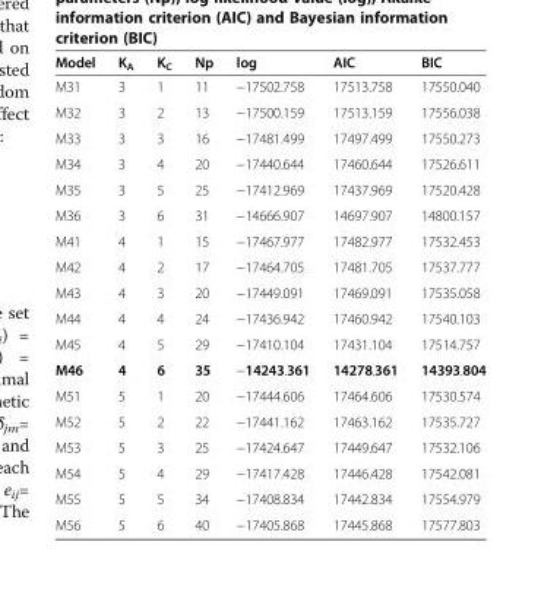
<table><thead><tr><td>Model</td><td>K<sub>A</sub></td><td>K<sub>C</sub></td><td>Np</td><td>log</td><td>AIC</td><td>BIC</td></tr></thead><tbody><tr><td>M31</td><td>3</td><td>1</td><td>11</td><td>−17502.758</td><td>17513.758</td><td>17550.040</td></tr><tr><td>M32</td><td>3</td><td>2</td><td>13</td><td>−17500.159</td><td>17513.159</td><td>17556.038</td></tr><tr><td>M33</td><td>3</td><td>3</td><td>16</td><td>−17481.499</td><td>17497.499</td><td>17550.273</td></tr><tr><td>M34</td><td>3</td><td>4</td><td>20</td><td>−17440.644</td><td>17460.644</td><td>17526.611</td></tr><tr><td>M35</td><td>3</td><td>5</td><td>25</td><td>−17412.969</td><td>17437.969</td><td>17520.428</td></tr><tr><td>M36</td><td>3</td><td>6</td><td>31</td><td>−14666.907</td><td>14697.907</td><td>14800.157</td></tr><tr><td>M41</td><td>4</td><td>1</td><td>15</td><td>−17467.977</td><td>17482.977</td><td>17532.453</td></tr><tr><td>M42</td><td>4</td><td>2</td><td>17</td><td>−17464.705</td><td>17481.705</td><td>17537.777</td></tr><tr><td>M43</td><td>4</td><td>3</td><td>20</td><td>−17449.091</td><td>17469.091</td><td>17535.058</td></tr><tr><td>M44</td><td>4</td><td>4</td><td>24</td><td>−17436.942</td><td>17460.942</td><td>17540.103</td></tr><tr><td>M45</td><td>4</td><td>5</td><td>29</td><td>−17410.104</td><td>17431.104</td><td>17514.757</td></tr><tr><td>M46</td><td>4</td><td>6</td><td>35</td><td>−14243.361</td><td>14278.361</td><td>14393.804</td></tr><tr><td>M51</td><td>5</td><td>1</td><td>20</td><td>−17444.606</td><td>17464.606</td><td>17530.574</td></tr><tr><td>M52</td><td>5</td><td>2</td><td>22</td><td>−17441.162</td><td>17463.162</td><td>17535.727</td></tr><tr><td>M53</td><td>5</td><td>3</td><td>25</td><td>−17424.647</td><td>17449.647</td><td>17532.106</td></tr><tr><td>M54</td><td>5</td><td>4</td><td>29</td><td>−17417.428</td><td>17446.428</td><td>17542.081</td></tr><tr><td>M55</td><td>5</td><td>5</td><td>34</td><td>−17408.834</td><td>17442.834</td><td>17554.979</td></tr><tr><td>M56</td><td>5</td><td>6</td><td>40</td><td>−17405.868</td><td>17445.868</td><td>17577.803</td></tr></tbody></table>